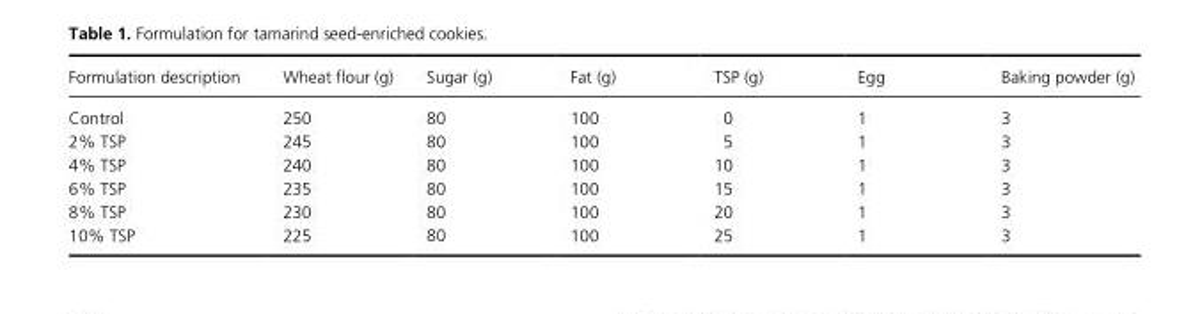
<table><thead><tr><td>Formulation description</td><td>Wheat flour (g)</td><td>Sugar (g)</td><td>Fat (g)</td><td>TSP (g)</td><td>Egg</td><td>Baking powder (g)</td></tr></thead><tbody><tr><td>Control</td><td>250</td><td>80</td><td>100</td><td>0</td><td>1</td><td>3</td></tr><tr><td>2% TSP</td><td>245</td><td>80</td><td>100</td><td>5</td><td>1</td><td>3</td></tr><tr><td>4% TSP</td><td>240</td><td>80</td><td>100</td><td>10</td><td>1</td><td>3</td></tr><tr><td>6% TSP</td><td>235</td><td>80</td><td>100</td><td>15</td><td>1</td><td>3</td></tr><tr><td>8% TSP</td><td>230</td><td>80</td><td>100</td><td>20</td><td>1</td><td>3</td></tr><tr><td>10% TSP</td><td>225</td><td>80</td><td>100</td><td>25</td><td>1</td><td>3</td></tr></tbody></table>